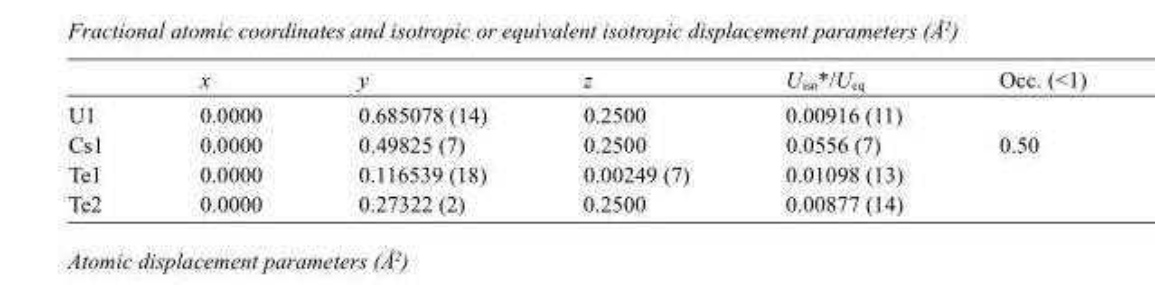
<table><thead><tr><td></td><td>x</td><td>y</td><td>z</td><td>U<sub>iso</sub>*/U<sub>eq</sub></td><td>Occ. (&lt;1)</td></tr></thead><tbody><tr><td>U1</td><td>0.0000</td><td>0.685078 (14)</td><td>0.2500</td><td>0.00916 (11)</td><td></td></tr><tr><td>Cs1</td><td>0.0000</td><td>0.49825 (7)</td><td>0.2500</td><td>0.0556 (7)</td><td>0.50</td></tr><tr><td>Te1</td><td>0.0000</td><td>0.116539 (18)</td><td>0.00249 (7)</td><td>0.01098 (13)</td><td></td></tr><tr><td>Te2</td><td>0.0000</td><td>0.27322 (2)</td><td>0.2500</td><td>0.00877 (14)</td><td></td></tr></tbody></table>